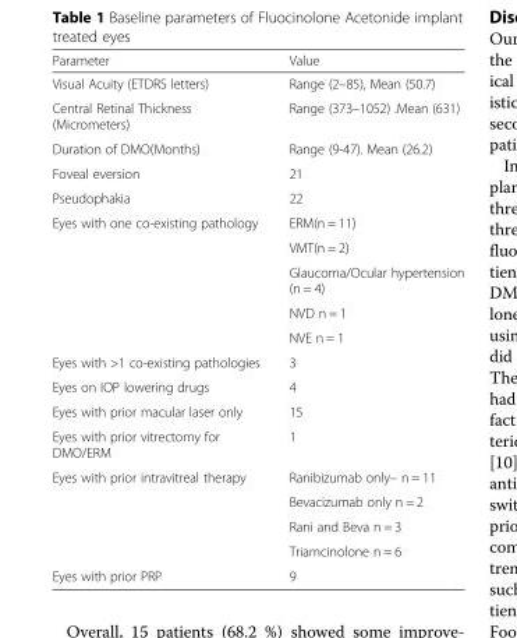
<table><thead><tr><td>Parameter</td><td>Value</td></tr></thead><tbody><tr><td>Visual Acuity (ETDRS letters)</td><td>Range (2–85), Mean (50.7)</td></tr><tr><td>Central Retinal Thickness (Micrometers)</td><td>Range (373–1052) .Mean (631)</td></tr><tr><td>Duration of DMO(Months)</td><td>Range (9-47). Mean (26.2)</td></tr><tr><td>Foveal eversion</td><td>21</td></tr><tr><td>Pseudophakia</td><td>22</td></tr><tr><td rowspan="5">Eyes with one co-existing pathology</td><td>ERM(n = 11)</td></tr><tr><td>VMT(n = 2)</td></tr><tr><td>Glaucoma/Ocular hypertension (n = 4)</td></tr><tr><td>NVD n = 1</td></tr><tr><td>NVE n = 1</td></tr><tr><td>Eyes with &gt;1 co-existing pathologies</td><td>3</td></tr><tr><td>Eyes on IOP lowering drugs</td><td>4</td></tr><tr><td>Eyes with prior macular laser only</td><td>15</td></tr><tr><td>Eyes with prior vitrectomy for DMO/ERM</td><td>1</td></tr><tr><td rowspan="4">Eyes with prior intravitreal therapy</td><td>Ranibizumab only– n = 11</td></tr><tr><td>Bevacizumab only n = 2</td></tr><tr><td>Rani and Beva n = 3</td></tr><tr><td>Triamcinolone n = 6</td></tr><tr><td>Eyes with prior PRP</td><td>9</td></tr></tbody></table>